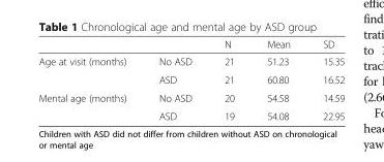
<table><thead><tr><td></td><td></td><td>N</td><td>Mean</td><td>SD</td></tr></thead><tbody><tr><td rowspan="2">Age at visit (months)</td><td>No ASD</td><td>21</td><td>51.23</td><td>15.35</td></tr><tr><td>ASD</td><td>21</td><td>60.80</td><td>16.52</td></tr><tr><td rowspan="2">Mental age (months)</td><td>No ASD</td><td>20</td><td>54.58</td><td>14.59</td></tr><tr><td>ASD</td><td>19</td><td>54.08</td><td>22.95</td></tr></tbody></table>